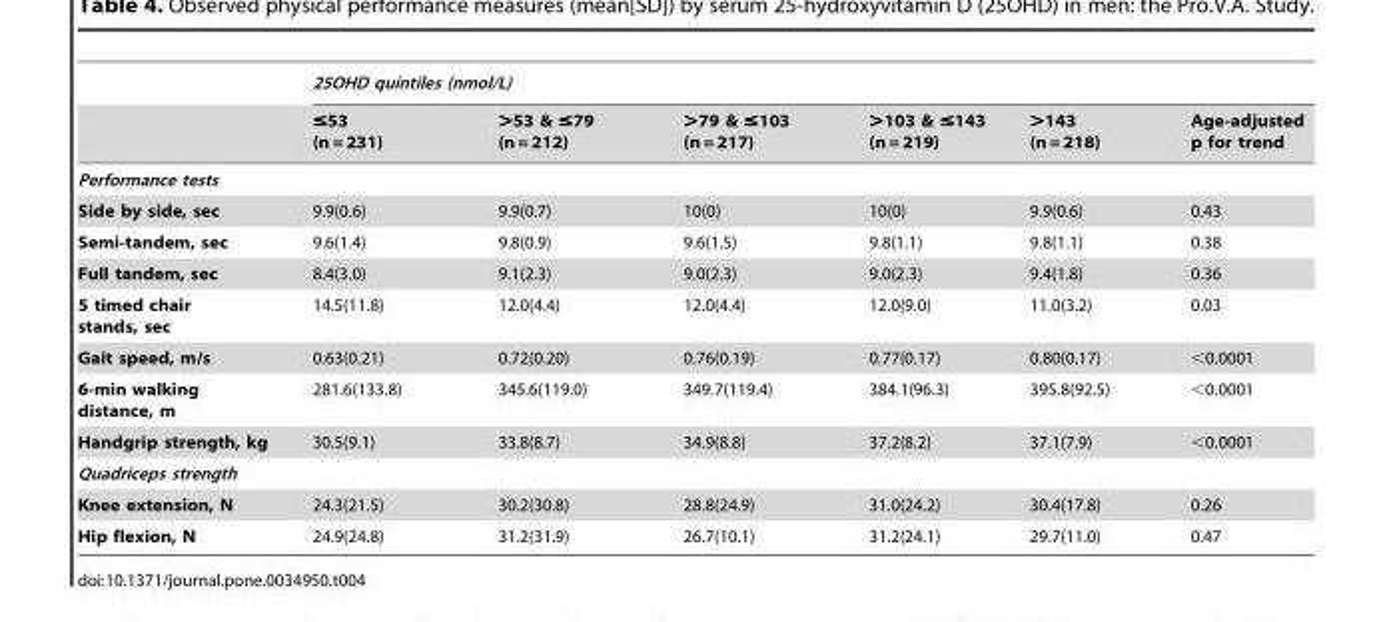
<table><thead><tr><td rowspan="2"></td><td colspan="6">25OHD quintiles (nmol/L)</td></tr><tr><td>≤53 (n = 231)</td><td>&gt;53 &amp; ≤79 (n = 212)</td><td>&gt;79 &amp; ≤103 (n = 217)</td><td>&gt;103 &amp; ≤143 (n = 219)</td><td>&gt;143 (n = 218)</td><td>Age-adjusted p for trend</td></tr></thead><tbody><tr><td colspan="7">Performance tests</td></tr><tr><td>Side by side, sec</td><td>9.9(0.6)</td><td>9.9(0.7)</td><td>10(0)</td><td>10(0)</td><td>9.9(0.6)</td><td>0.43</td></tr><tr><td>Semi-tandem, sec</td><td>9.6(1.4)</td><td>9.8(0.9)</td><td>9.6(1.5)</td><td>9.8(1.1)</td><td>9.8(1.1)</td><td>0.38</td></tr><tr><td>Full tandem, sec</td><td>8.4(3.0)</td><td>9.1(2.3)</td><td>9.0(2.3)</td><td>9.0(2.3)</td><td>9.4(1.8)</td><td>0.36</td></tr><tr><td>5 timed chair stands, sec</td><td>14.5(11.8)</td><td>12.0(4.4)</td><td>12.0(4.4)</td><td>12.0(9.0)</td><td>11.0(3.2)</td><td>0.03</td></tr><tr><td>Gait speed, m/s</td><td>0.63(0.21)</td><td>0.72(0.20)</td><td>0.76(0.19)</td><td>0.77(0.17)</td><td>0.80(0.17)</td><td>&lt;0.0001</td></tr><tr><td>6-min walking distance, m</td><td>281.6(133.8)</td><td>345.6(119.0)</td><td>349.7(119.4)</td><td>384.1(96.3)</td><td>395.8(92.5)</td><td>&lt;0.0001</td></tr><tr><td>Handgrip strength, kg</td><td>30.5(9.1)</td><td>33.8(8.7)</td><td>34.9(8.8)</td><td>37.2(8.2)</td><td>37.1(7.9)</td><td>&lt;0.0001</td></tr><tr><td colspan="7">Quadriceps strength</td></tr><tr><td>Knee extension, N</td><td>24.3(21.5)</td><td>30.2(30.8)</td><td>28.8(24.9)</td><td>31.0(24.2)</td><td>30.4(17.8)</td><td>0.26</td></tr><tr><td>Hip flexion, N</td><td>24.9(24.8)</td><td>31.2(31.9)</td><td>26.7(10.1)</td><td>31.2(24.1)</td><td>29.7(11.0)</td><td>0.47</td></tr></tbody></table>